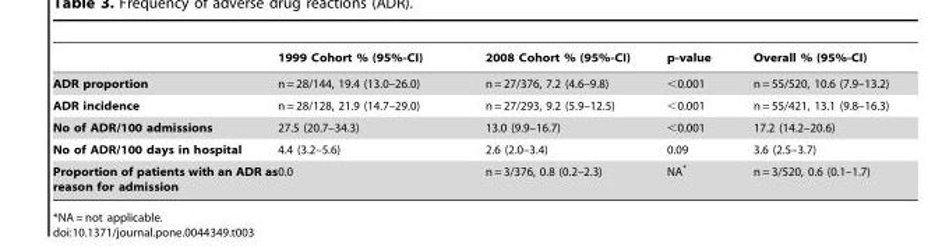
<table><thead><tr><td></td><td>1999 Cohort % (95%-CI)</td><td>2008 Cohort % (95%-CI)</td><td>p-value</td><td>Overall % (95%-CI)</td></tr></thead><tbody><tr><td>ADR proportion</td><td>n = 28/144, 19.4 (13.0–26.0)</td><td>n = 27/376, 7.2 (4.6–9.8)</td><td>&lt;0.001</td><td>n = 55/520, 10.6 (7.9–13.2)</td></tr><tr><td>ADR incidence</td><td>n = 28/128, 21.9 (14.7–29.0)</td><td>n = 27/293, 9.2 (5.9–12.5)</td><td>&lt;0.001</td><td>n = 55/421, 13.1 (9.8–16.3)</td></tr><tr><td>No of ADR/100 admissions</td><td>27.5 (20.7–34.3)</td><td>13.0 (9.9–16.7)</td><td>&lt;0.001</td><td>17.2 (14.2–20.6)</td></tr><tr><td>No of ADR/100 days in hospital</td><td>4.4 (3.2–5.6)</td><td>2.6 (2.0–3.4)</td><td>0.09</td><td>3.6 (2.5–3.7)</td></tr><tr><td>Proportion of patients with an ADR as reason for admission</td><td>0.0</td><td>n = 3/376, 0.8 (0.2–2.3)</td><td>NA*</td><td>n = 3/520, 0.6 (0.1–1.7)</td></tr></tbody></table>